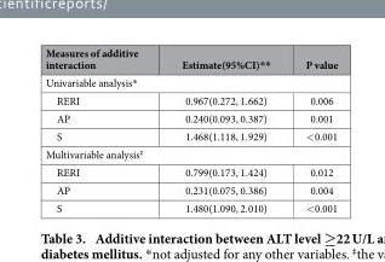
<table><thead><tr><td>Measures of additive interaction</td><td>Estimate(95%CI)**</td><td>P value</td></tr></thead><tbody><tr><td colspan="3">Univariable analysis*</td></tr><tr><td>RERI</td><td>0.967(0.272, 1.662)</td><td>0.006</td></tr><tr><td>AP</td><td>0.240(0.093, 0.387)</td><td>0.001</td></tr><tr><td>S</td><td>1.468(1.118, 1.929)</td><td>&lt; 0.001</td></tr><tr><td colspan="3">Multivariable analysis‡</td></tr><tr><td>RERI</td><td>0.799(0.173, 1.424)</td><td>0.012</td></tr><tr><td>AP</td><td>0.231(0.075, 0.386)</td><td>0.004</td></tr><tr><td>S</td><td>1.480(1.090, 2.010)</td><td>&lt; 0.001</td></tr></tbody></table>